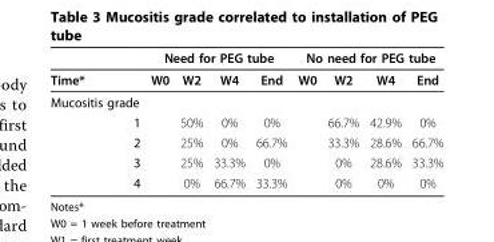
<table><thead><tr><td rowspan="2">Time*</td><td colspan="4">Need for PEG tube</td><td colspan="4">No need for PEG tube</td></tr><tr><td>W0</td><td>W2</td><td>W4</td><td>End</td><td>W0</td><td>W2</td><td>W4</td><td>End</td></tr></thead><tbody><tr><td colspan="9">Mucositis grade</td></tr><tr><td>1</td><td></td><td>50%</td><td>0%</td><td>0%</td><td></td><td>66.7%</td><td>42.9%</td><td>0%</td></tr><tr><td>2</td><td></td><td>25%</td><td>0%</td><td>66.7%</td><td></td><td>33.3%</td><td>28.6%</td><td>66.7%</td></tr><tr><td>3</td><td></td><td>25%</td><td>33.3%</td><td>0%</td><td></td><td>0%</td><td>28.6%</td><td>33.3%</td></tr><tr><td>4</td><td></td><td>0%</td><td>66.7%</td><td>33.3%</td><td></td><td>0%</td><td>0%</td><td>0%</td></tr></tbody></table>